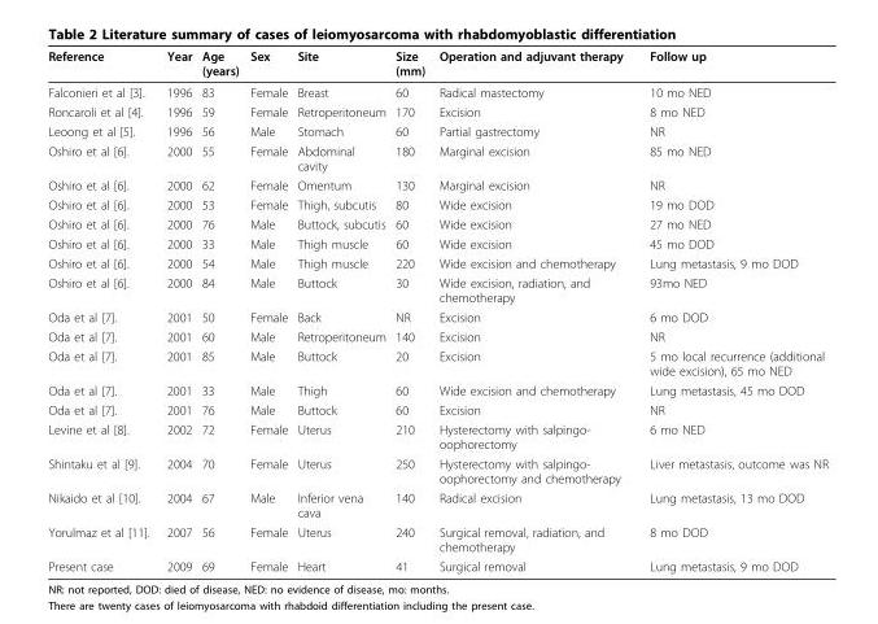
<table><thead><tr><td>Reference</td><td>Year</td><td>Age (years)</td><td>Sex</td><td>Site</td><td>Size (mm)</td><td>Operation and adjuvant therapy</td><td>Follow up</td></tr></thead><tbody><tr><td>Falconieri et al [3].</td><td>1996</td><td>83</td><td>Female</td><td>Breast</td><td>60</td><td>Radical mastectomy</td><td>10 mo NED</td></tr><tr><td>Roncaroli et al [4].</td><td>1996</td><td>59</td><td>Female</td><td>Retroperitoneum</td><td>170</td><td>Excision</td><td>8 mo NED</td></tr><tr><td>Leoong et al [5].</td><td>1996</td><td>56</td><td>Male</td><td>Stomach</td><td>60</td><td>Partial gastrectomy</td><td>NR</td></tr><tr><td>Oshiro et al [6].</td><td>2000</td><td>55</td><td>Female</td><td>Abdominal cavity</td><td>180</td><td>Marginal excision</td><td>85 mo NED</td></tr><tr><td>Oshiro et al [6].</td><td>2000</td><td>62</td><td>Female</td><td>Omentum</td><td>130</td><td>Marginal excision</td><td>NR</td></tr><tr><td>Oshiro et al [6].</td><td>2000</td><td>53</td><td>Female</td><td>Thigh, subcutis</td><td>80</td><td>Wide excision</td><td>19 mo DOD</td></tr><tr><td>Oshiro et al [6].</td><td>2000</td><td>76</td><td>Male</td><td>Buttock, subcutis</td><td>60</td><td>Wide excision</td><td>27 mo NED</td></tr><tr><td>Oshiro et al [6].</td><td>2000</td><td>33</td><td>Male</td><td>Thigh muscle</td><td>60</td><td>Wide excision</td><td>45 mo DOD</td></tr><tr><td>Oshiro et al [6].</td><td>2000</td><td>54</td><td>Male</td><td>Thigh muscle</td><td>220</td><td>Wide excision and chemotherapy</td><td>Lung metastasis, 9 mo DOD</td></tr><tr><td>Oshiro et al [6].</td><td>2000</td><td>84</td><td>Male</td><td>Buttock</td><td>30</td><td>Wide excision, radiation, and chemotherapy</td><td>93mo NED</td></tr><tr><td>Oda et al [7].</td><td>2001</td><td>50</td><td>Female</td><td>Back</td><td>NR</td><td>Excision</td><td>6 mo DOD</td></tr><tr><td>Oda et al [7].</td><td>2001</td><td>60</td><td>Male</td><td>Retroperitoneum</td><td>140</td><td>Excision</td><td>NR</td></tr><tr><td>Oda et al [7].</td><td>2001</td><td>85</td><td>Male</td><td>Buttock</td><td>20</td><td>Excision</td><td>5 mo local recurrence (additional wide excision), 65 mo NED</td></tr><tr><td>Oda et al [7].</td><td>2001</td><td>33</td><td>Male</td><td>Thigh</td><td>60</td><td>Wide excision and chemotherapy</td><td>Lung metastasis, 45 mo DOD</td></tr><tr><td>Oda et al [7].</td><td>2001</td><td>76</td><td>Male</td><td>Buttock</td><td>60</td><td>Excision</td><td>NR</td></tr><tr><td>Levine et al [8].</td><td>2002</td><td>72</td><td>Female</td><td>Uterus</td><td>210</td><td>Hysterectomy with salpingo- oophorectomy</td><td>6 mo NED</td></tr><tr><td>Shintaku et al [9].</td><td>2004</td><td>70</td><td>Female</td><td>Uterus</td><td>250</td><td>Hysterectomy with salpingo- oophorectomy and chemotherapy</td><td>Liver metastasis, outcome was NR</td></tr><tr><td>Nikaido et al [10].</td><td>2004</td><td>67</td><td>Male</td><td>Inferior vena cava</td><td>140</td><td>Radical excision</td><td>Lung metastasis, 13 mo DOD</td></tr><tr><td>Yorulmaz et al [11].</td><td>2007</td><td>56</td><td>Female</td><td>Uterus</td><td>240</td><td>Surgical removal, radiation, and chemotherapy</td><td>8 mo DOD</td></tr><tr><td>Present case</td><td>2009</td><td>69</td><td>Female</td><td>Heart</td><td>41</td><td>Surgical removal</td><td>Lung metastasis, 9 mo DOD</td></tr></tbody></table>